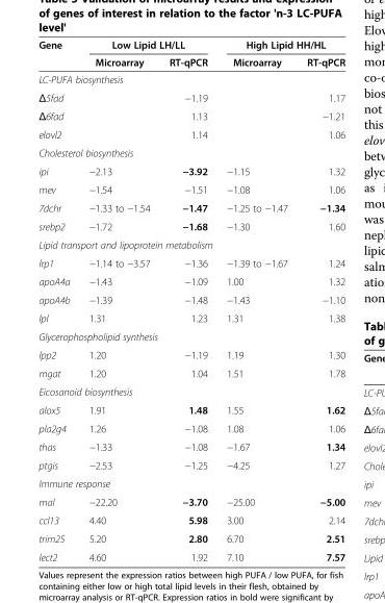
<table><thead><tr><td rowspan="2">Gene</td><td colspan="2">Low Lipid LH/LL</td><td colspan="2">High Lipid HH/HL</td></tr><tr><td>Microarray</td><td>RT-qPCR</td><td>Microarray</td><td>RT-qPCR</td></tr></thead><tbody><tr><td colspan="5">LC-PUFA biosynthesis</td></tr><tr><td>Δ5fad</td><td></td><td>−1.19</td><td></td><td>1.17</td></tr><tr><td>Δ6fad</td><td></td><td>1.13</td><td></td><td>−1.21</td></tr><tr><td>elovl2</td><td></td><td>1.14</td><td></td><td>1.06</td></tr><tr><td colspan="5">Cholesterol biosynthesis</td></tr><tr><td>ipi</td><td>−2.13</td><td>−3.92</td><td>−1.15</td><td>1.32</td></tr><tr><td>mev</td><td>−1.54</td><td>−1.51</td><td>−1.08</td><td>1.06</td></tr><tr><td>7dchr</td><td>−1.33 to −1.54</td><td>−1.47</td><td>−1.25 to −1.47</td><td>−1.34</td></tr><tr><td>srebp2</td><td>−1.72</td><td>−1.68</td><td>−1.30</td><td>1.60</td></tr><tr><td colspan="5">Lipid transport and lipoprotein metabolism</td></tr><tr><td>lrp1</td><td>−1.14 to −3.57</td><td>−1.36</td><td>−1.39 to −1.67</td><td>1.24</td></tr><tr><td>apoA4a</td><td>−1.43</td><td>−1.09</td><td>1.00</td><td>1.32</td></tr><tr><td>apoA4b</td><td>−1.39</td><td>−1.48</td><td>−1.43</td><td>−1.10</td></tr><tr><td>lpl</td><td>1.31</td><td>1.23</td><td>1.31</td><td>1.38</td></tr><tr><td colspan="5">Glycerophospholipid synthesis</td></tr><tr><td>lpp2</td><td>1.20</td><td>−1.19</td><td>1.19</td><td>1.30</td></tr><tr><td>mgat</td><td>1.20</td><td>1.04</td><td>1.51</td><td>1.78</td></tr><tr><td colspan="5">Eicosanoid biosynthesis</td></tr><tr><td>alox5</td><td>1.91</td><td>1.48</td><td>1.55</td><td>1.62</td></tr><tr><td>pla2g4</td><td>1.26</td><td>−1.08</td><td>1.08</td><td>1.06</td></tr><tr><td>thas</td><td>−1.33</td><td>−1.08</td><td>−1.67</td><td>1.34</td></tr><tr><td>ptgis</td><td>−2.53</td><td>−1.25</td><td>−4.25</td><td>1.27</td></tr><tr><td colspan="5">Immune response</td></tr><tr><td>mal</td><td>−22.20</td><td>−3.70</td><td>−25.00</td><td>−5.00</td></tr><tr><td>ccl13</td><td>4.40</td><td>5.98</td><td>3.00</td><td>2.14</td></tr><tr><td>trim25</td><td>5.20</td><td>2.80</td><td>6.70</td><td>2.51</td></tr><tr><td>lect2</td><td>4.60</td><td>1.92</td><td>7.10</td><td>7.57</td></tr></tbody></table>